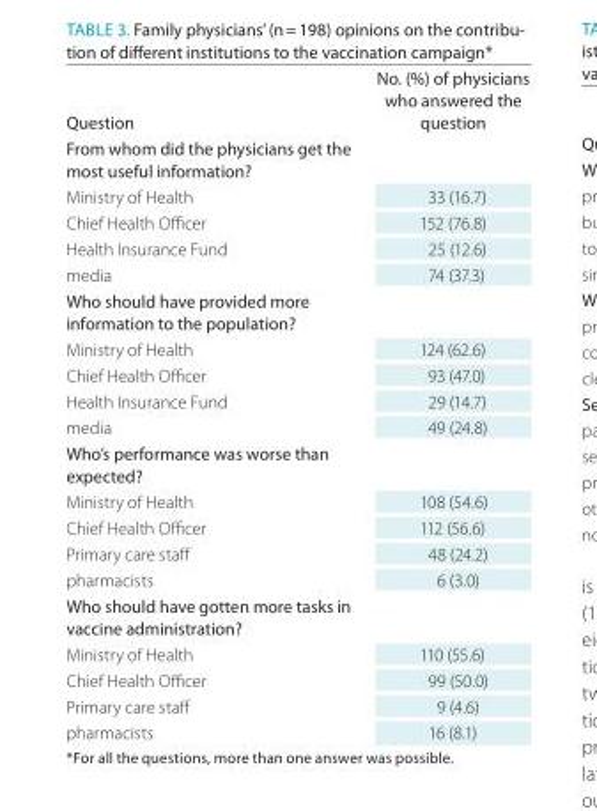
<table><thead><tr><td>Question</td><td>No. (%) of physicians who answered the question</td></tr></thead><tbody><tr><td colspan="2">From whom did the physicians get the most useful information?</td></tr><tr><td>Ministry of Health</td><td>33 (16.7)</td></tr><tr><td>Chief Health Officer</td><td>152 (76.8)</td></tr><tr><td>Health Insurance Fund</td><td>25 (12.6)</td></tr><tr><td>media</td><td>74 (37.3)</td></tr><tr><td colspan="2">Who should have provided more information to the population?</td></tr><tr><td>Ministry of Health</td><td>124 (62.6)</td></tr><tr><td>Chief Health Officer</td><td>93 (47.0)</td></tr><tr><td>Health Insurance Fund</td><td>29 (14.7)</td></tr><tr><td>media</td><td>49 (24.8)</td></tr><tr><td colspan="2">Who’s performance was worse than expected?</td></tr><tr><td>Ministry of Health</td><td>108 (54.6)</td></tr><tr><td>Chief Health Officer</td><td>112 (56.6)</td></tr><tr><td>Primary care staff</td><td>48 (24.2)</td></tr><tr><td>pharmacists</td><td>6 (3.0)</td></tr><tr><td colspan="2">Who should have gotten more tasks in vaccine administration?</td></tr><tr><td>Ministry of Health</td><td>110 (55.6)</td></tr><tr><td>Chief Health Officer</td><td>99 (50.0)</td></tr><tr><td>Primary care staff</td><td>9 (4.6)</td></tr><tr><td>pharmacists</td><td>16 (8.1)</td></tr></tbody></table>